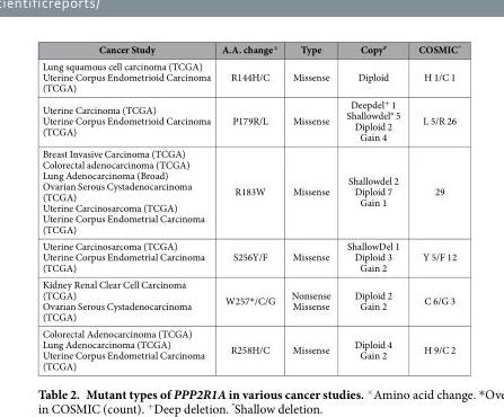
<table><thead><tr><td>Cancer Study</td><td>A.A. change<sup>×</sup></td><td>Type</td><td>Copy<sup>#</sup></td><td>COSMIC*</td></tr></thead><tbody><tr><td>Lung squamous cell carcinoma (TCGA) Uterine Corpus Endometrioid Carcinoma (TCGA)</td><td>R144H/C</td><td>Missense</td><td>Diploid</td><td>H 1/C 1</td></tr><tr><td>Uterine Carcinoma (TCGA) Uterine Corpus Endometrioid Carcinoma (TCGA)</td><td>P179R/L</td><td>Missense</td><td>Deepdel<sup>+</sup> 1 Shallowdel° 5 Diploid 2 Gain 4</td><td>L 5/R 26</td></tr><tr><td>Breast Invasive Carcinoma (TCGA) Colorectal adenocarcinoma (TCGA) Lung Adenocarcinoma (Broad) Ovarian Serous Cystadenocarcinoma (TCGA) Uterine Carcinosarcoma (TCGA) Uterine Corpus Endometrial Carcinoma (TCGA)</td><td>R183W</td><td>Missense</td><td>Shallowdel 2 Diploid 7 Gain 1</td><td>29</td></tr><tr><td>Uterine Carcinosarcoma (TCGA) Uterine Corpus Endometrial Carcinoma (TCGA)</td><td>S256Y/F</td><td>Missense</td><td>ShallowDel 1 Diploid 3 Gain 2</td><td>Y 5/F 12</td></tr><tr><td>Kidney Renal Clear Cell Carcinoma (TCGA) Ovarian Serous Cystadenocarcinoma (TCGA)</td><td>W257* /C/G</td><td>Nonsense Missense</td><td>Diploid 2 Gain 2</td><td>C 6/G 3</td></tr><tr><td>Colorectal Adenocarcinoma (TCGA) Lung Adenocarcinoma (TCGA) Uterine Corpus Endometrial Carcinoma (TCGA)</td><td>R258H/C</td><td>Missense</td><td>Diploid 4 Gain 2</td><td>H 9/C 2</td></tr></tbody></table>